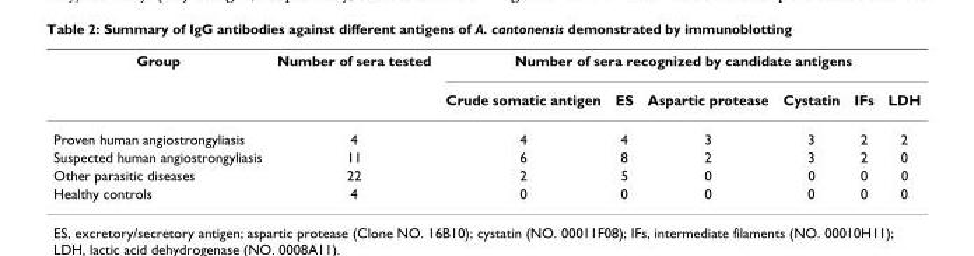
<table><thead><tr><td rowspan="2">Group</td><td rowspan="2">Number of sera tested</td><td colspan="6">Number of sera recognized by candidate antigens</td></tr><tr><td>Crude somatic antigen</td><td>ES</td><td>Aspartic protease</td><td>Cystatin</td><td>IFs</td><td>LDH</td></tr></thead><tbody><tr><td>Proven human angiostrongyliasis</td><td>4</td><td>4</td><td>4</td><td>3</td><td>3</td><td>2</td><td>2</td></tr><tr><td>Suspected human angiostrongyliasis</td><td>11</td><td>6</td><td>8</td><td>2</td><td>3</td><td>2</td><td>0</td></tr><tr><td>Other parasitic diseases</td><td>22</td><td>2</td><td>5</td><td>0</td><td>0</td><td>0</td><td>0</td></tr><tr><td>Healthy controls</td><td>4</td><td>0</td><td>0</td><td>0</td><td>0</td><td>0</td><td>0</td></tr></tbody></table>